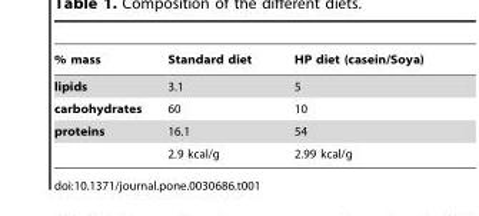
<table><thead><tr><td>% mass</td><td>Standard diet</td><td>HP diet (casein/Soya)</td></tr></thead><tbody><tr><td>lipids</td><td>3.1</td><td>5</td></tr><tr><td>carbohydrates</td><td>60</td><td>10</td></tr><tr><td rowspan="2">proteins</td><td>16.1</td><td>54</td></tr><tr><td>2.9 kcal/g</td><td>2.99 kcal/g</td></tr></tbody></table>